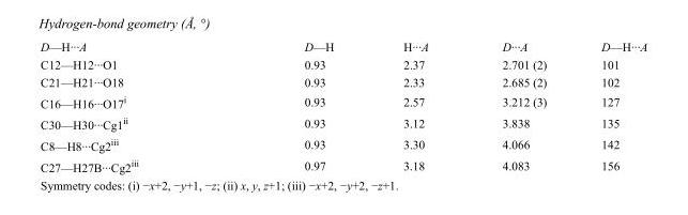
<table><tbody><tr><td>D—H···A</td><td>D—H</td><td>H···A</td><td>D···A</td><td>D—H···A</td></tr><tr><td>C12—H12···O1</td><td>0.93</td><td>2.37</td><td>2.701 (2)</td><td>101</td></tr><tr><td>C21—H21···O18</td><td>0.93</td><td>2.33</td><td>2.685 (2)</td><td>102</td></tr><tr><td>C16—H16···O17<sup>i</sup></td><td>0.93</td><td>2.57</td><td>3.212 (3)</td><td>127</td></tr><tr><td>C30—H30···Cg1<sup>ii</sup></td><td>0.93</td><td>3.12</td><td>3.838</td><td>135</td></tr><tr><td>C8—H8···Cg2<sup>iii</sup></td><td>0.93</td><td>3.30</td><td>4.066</td><td>142</td></tr><tr><td>C27—H27B···Cg2<sup>iii</sup></td><td>0.97</td><td>3.18</td><td>4.083</td><td>156</td></tr></tbody></table>